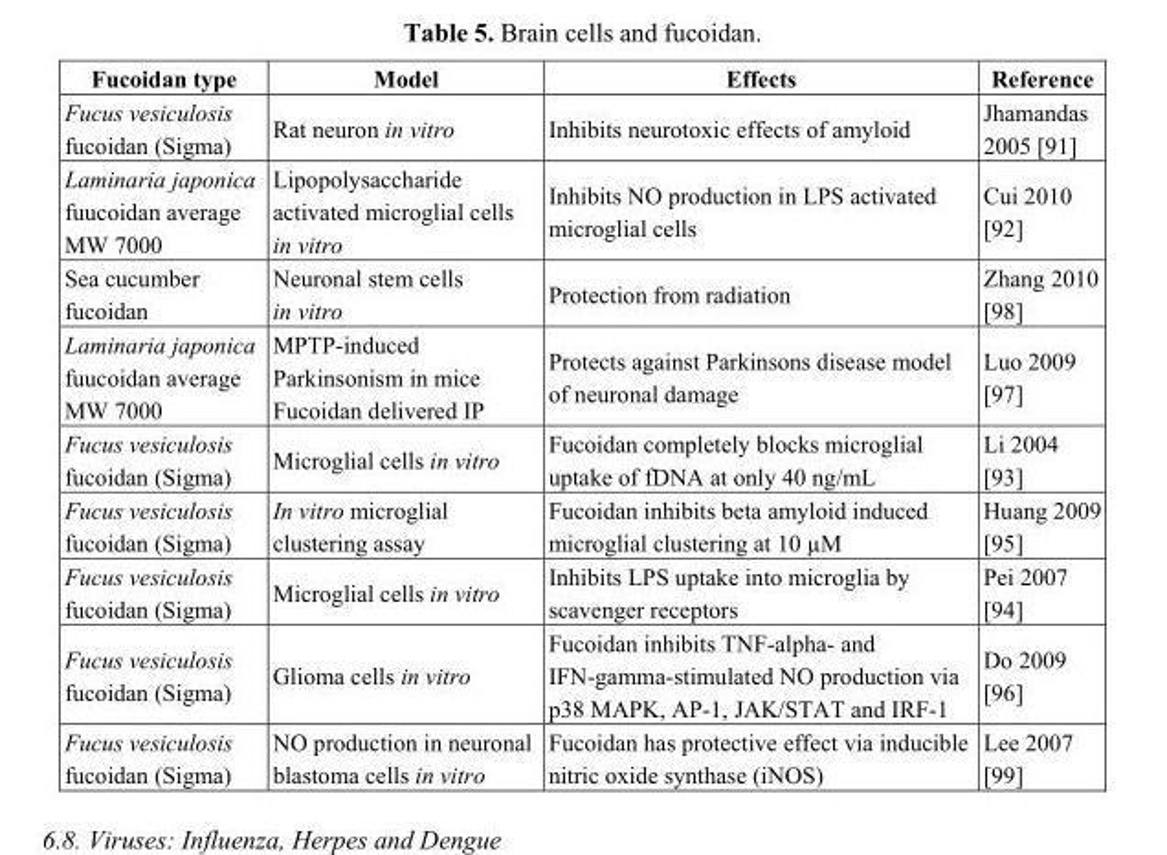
<table><thead><tr><td>Fucoidan type</td><td>Model</td><td>Effects</td><td>Reference</td></tr></thead><tbody><tr><td>Fucus vesiculosis fucoidan (Sigma)</td><td>Rat neuron in vitro</td><td>Inhibits neurotoxic effects of amyloid</td><td>Jhamandas 2005 [91]</td></tr><tr><td>Laminaria japonica fuucoidan average MW 7000</td><td>Lipopolysaccharide activated microglial cells in vitro</td><td>Inhibits NO production in LPS activated microglial cells</td><td>Cui 2010 [92]</td></tr><tr><td>Sea cucumber fucoidan</td><td>Neuronal stem cells in vitro</td><td>Protection from radiation</td><td>Zhang 2010 [98]</td></tr><tr><td>Laminaria japonica fuucoidan average MW 7000</td><td>MPTP-induced Parkinsonism in mice Fucoidan delivered IP</td><td>Protects against Parkinsons disease model of neuronal damage</td><td>Luo 2009 [97]</td></tr><tr><td>Fucus vesiculosis fucoidan (Sigma)</td><td>Microglial cells in vitro</td><td>Fucoidan completely blocks microglial uptake of fDNA at only 40 ng/mL</td><td>Li 2004 [93]</td></tr><tr><td>Fucus vesiculosis fucoidan (Sigma)</td><td>In vitro microglial clustering assay</td><td>Fucoidan inhibits beta amyloid induced microglial clustering at 10 µM</td><td>Huang 2009 [95]</td></tr><tr><td>Fucus vesiculosis fucoidan (Sigma)</td><td>Microglial cells in vitro</td><td>Inhibits LPS uptake into microglia by scavenger receptors</td><td>Pei 2007 [94]</td></tr><tr><td>Fucus vesiculosis fucoidan (Sigma)</td><td>Glioma cells in vitro</td><td>Fucoidan inhibits TNF-alpha- and IFN-gamma-stimulated NO production via p38 MAPK, AP-1, JAK/STAT and IRF-1</td><td>Do 2009 [96]</td></tr><tr><td>Fucus vesiculosis fucoidan (Sigma)</td><td>NO production in neuronal blastoma cells in vitro</td><td>Fucoidan has protective effect via inducible nitric oxide synthase (iNOS)</td><td>Lee 2007 [99]</td></tr></tbody></table>